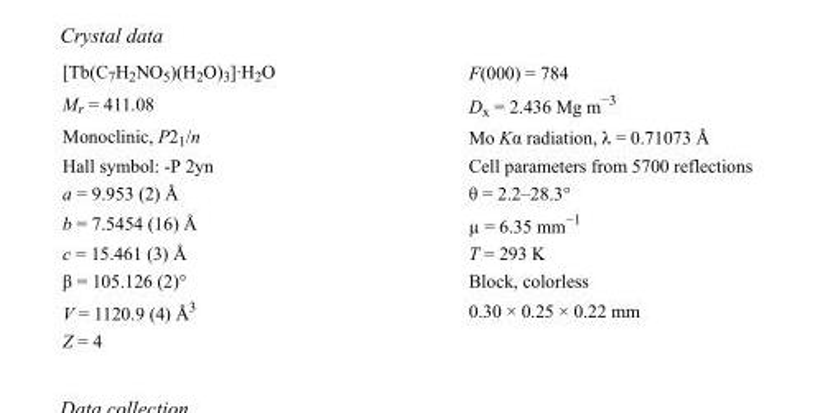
<table><tbody><tr><td>[Tb(C<sub>7</sub>H<sub>2</sub>NO<sub>5</sub>)(H<sub>2</sub>O)<sub>3</sub>]·H<sub>2</sub>O</td><td>F(000) = 784</td></tr><tr><td>M<sub>r</sub> = 411.08</td><td>D<sub>x</sub> = 2.436 Mg m<sup>−3</sup></td></tr><tr><td>Monoclinic, P2<sub>1</sub>/n</td><td>Mo Kα radiation, λ = 0.71073 Å</td></tr><tr><td>Hall symbol: -P 2yn</td><td>Cell parameters from 5700 reflections</td></tr><tr><td>a = 9.953 (2) Å</td><td>θ = 2.2–28.3°</td></tr><tr><td>b = 7.5454 (16) Å</td><td>µ = 6.35 mm<sup>−1</sup></td></tr><tr><td>c = 15.461 (3) Å</td><td>T = 293 K</td></tr><tr><td>β = 105.126 (2)°</td><td>Block, colorless</td></tr><tr><td>V = 1120.9 (4) Å<sup>3</sup></td><td>0.30 × 0.25 × 0.22 mm</td></tr><tr><td>Z = 4</td><td></td></tr></tbody></table>